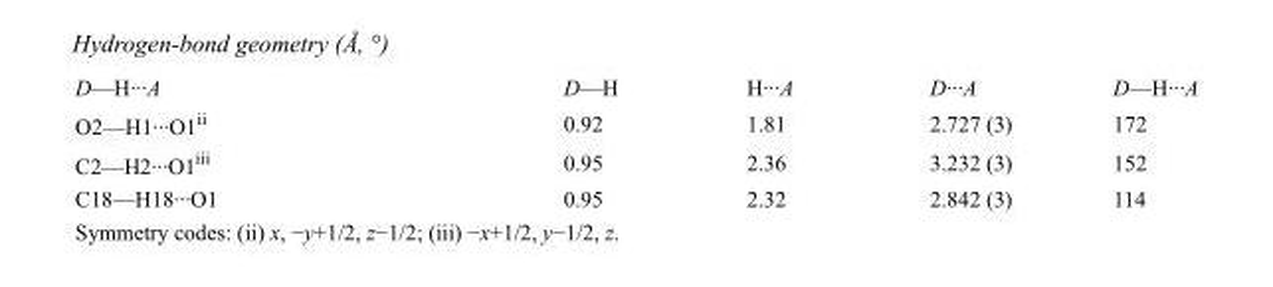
<table><tbody><tr><td>D—H···A</td><td>D—H</td><td>H···A</td><td>D···A</td><td>D—H···A</td></tr><tr><td>O2—H1···O1<sup>ii</sup></td><td>0.92</td><td>1.81</td><td>2.727 (3)</td><td>172</td></tr><tr><td>C2—H2···O1<sup>iii</sup></td><td>0.95</td><td>2.36</td><td>3.232 (3)</td><td>152</td></tr><tr><td>C18—H18···O1</td><td>0.95</td><td>2.32</td><td>2.842 (3)</td><td>114</td></tr></tbody></table>